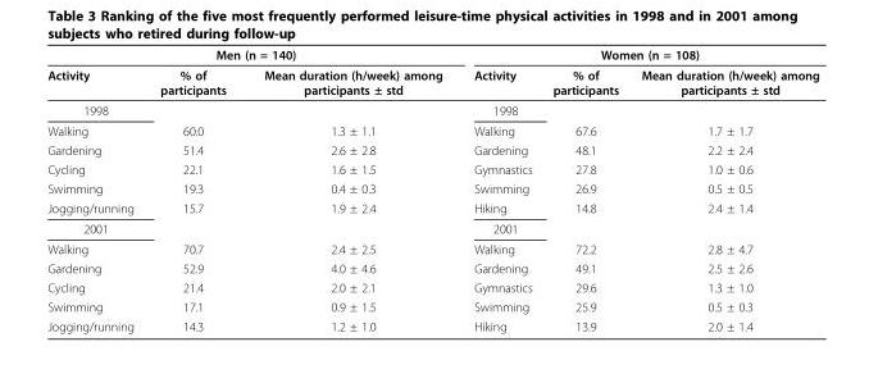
<table><thead><tr><td colspan="3">Men (n = 140)</td><td colspan="3">Women (n = 108)</td></tr><tr><td>Activity</td><td>% of participants</td><td>Mean duration (h/week) among participants ± std</td><td>Activity</td><td>% of participants</td><td>Mean duration (h/week) among participants ± std</td></tr></thead><tbody><tr><td>1998</td><td></td><td></td><td>1998</td><td></td><td></td></tr><tr><td>Walking</td><td>60.0</td><td>1.3 ± 1.1</td><td>Walking</td><td>67.6</td><td>1.7 ± 1.7</td></tr><tr><td>Gardening</td><td>51.4</td><td>2.6 ± 2.8</td><td>Gardening</td><td>48.1</td><td>2.2 ± 2.4</td></tr><tr><td>Cycling</td><td>22.1</td><td>1.6 ± 1.5</td><td>Gymnastics</td><td>27.8</td><td>1.0 ± 0.6</td></tr><tr><td>Swimming</td><td>19.3</td><td>0.4 ± 0.3</td><td>Swimming</td><td>26.9</td><td>0.5 ± 0.5</td></tr><tr><td>Jogging/running</td><td>15.7</td><td>1.9 ± 2.4</td><td>Hiking</td><td>14.8</td><td>2.4 ± 1.4</td></tr><tr><td>2001</td><td></td><td></td><td>2001</td><td></td><td></td></tr><tr><td>Walking</td><td>70.7</td><td>2.4 ± 2.5</td><td>Walking</td><td>72.2</td><td>2.8 ± 4.7</td></tr><tr><td>Gardening</td><td>52.9</td><td>4.0 ± 4.6</td><td>Gardening</td><td>49.1</td><td>2.5 ± 2.6</td></tr><tr><td>Cycling</td><td>21.4</td><td>2.0 ± 2.1</td><td>Gymnastics</td><td>29.6</td><td>1.3 ± 1.0</td></tr><tr><td>Swimming</td><td>17.1</td><td>0.9 ± 1.5</td><td>Swimming</td><td>25.9</td><td>0.5 ± 0.3</td></tr><tr><td>Jogging/running</td><td>14.3</td><td>1.2 ± 1.0</td><td>Hiking</td><td>13.9</td><td>2.0 ± 1.4</td></tr></tbody></table>